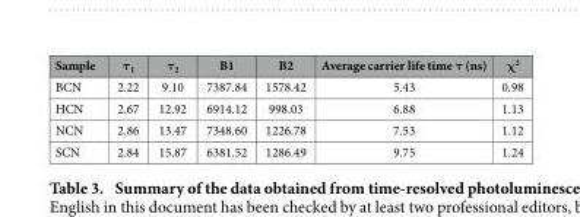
<table><thead><tr><td>Sample</td><td>τ <sub>1</sub></td><td>τ <sub>2</sub></td><td>B1</td><td>B2</td><td>Average carrier life time τ (ns)</td><td>χ <sup>2</sup></td></tr></thead><tbody><tr><td>BCN</td><td>2.22</td><td>9.10</td><td>7387.84</td><td>1578.42</td><td>5.43</td><td>0.98</td></tr><tr><td>HCN</td><td>2.67</td><td>12.92</td><td>6914.12</td><td>998.03</td><td>6.88</td><td>1.13</td></tr><tr><td>NCN</td><td>2.86</td><td>13.47</td><td>7348.60</td><td>1226.78</td><td>7.53</td><td>1.12</td></tr><tr><td>SCN</td><td>2.84</td><td>15.87</td><td>6381.52</td><td>1286.49</td><td>9.75</td><td>1.24</td></tr></tbody></table>